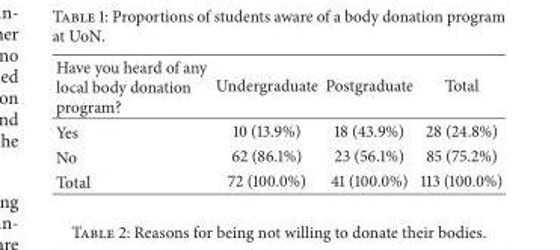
<table><thead><tr><td>Have you heard of any local body donation program?</td><td>Undergraduate</td><td>Postgraduate</td><td>Total</td></tr></thead><tbody><tr><td>Yes</td><td>10 (13.9%)</td><td>18 (43.9%)</td><td>28 (24.8%)</td></tr><tr><td>No</td><td>62 (86.1%)</td><td>23 (56.1%)</td><td>85 (75.2%)</td></tr><tr><td>Total</td><td>72 (100.0%)</td><td>41 (100.0%)</td><td>113 (100.0%)</td></tr></tbody></table>